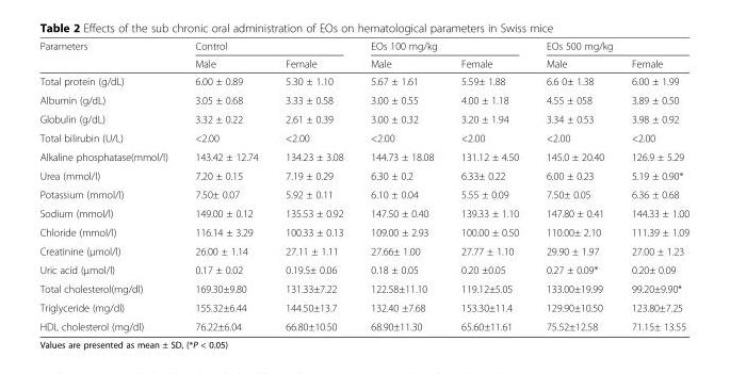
<table><thead><tr><td rowspan="2">Parameters</td><td colspan="2">Control</td><td colspan="2">EOs 100 mg/kg</td><td colspan="2">EOs 500 mg/kg</td></tr><tr><td>Male</td><td>Female</td><td>Male</td><td>Female</td><td>Male</td><td>Female</td></tr></thead><tbody><tr><td>Total protein (g/dL)</td><td>6.00 ± 0.89</td><td>5.30 ± 1.10</td><td>5.67 ± 1.61</td><td>5.59± 1.88</td><td>6.6 0± 1.38</td><td>6.00 ± 1.99</td></tr><tr><td>Albumin (g/dL)</td><td>3.05 ± 0.68</td><td>3.33 ± 0.58</td><td>3.00 ± 0.55</td><td>4.00 ± 1.18</td><td>4.55 ± 058</td><td>3.89 ± 0.50</td></tr><tr><td>Globulin (g/dL)</td><td>3.32 ± 0.22</td><td>2.61 ± 0.39</td><td>3.00 ± 0.32</td><td>3.20 ± 1.94</td><td>3.34 ± 0.53</td><td>3.98 ± 0.92</td></tr><tr><td>Total bilirubin (U/L)</td><td>&lt;2.00</td><td>&lt;2.00</td><td>&lt;2.00</td><td>&lt;2.00</td><td>&lt;2.00</td><td>&lt;2.00</td></tr><tr><td>Alkaline phosphatase(mmol/l)</td><td>143.42 ± 12.74</td><td>134.23 ± 3.08</td><td>144.73 ± 18.08</td><td>131.12 ± 4.50</td><td>145.0 ± 20.40</td><td>126.9 ± 5.29</td></tr><tr><td>Urea (mmol/l)</td><td>7.20 ± 0.15</td><td>7.19 ± 0.29</td><td>6.30 ± 0.2</td><td>6.33± 0.22</td><td>6.00 ± 0.23</td><td>5.19 ± 0.90*</td></tr><tr><td>Potassium (mmol/l)</td><td>7.50± 0.07</td><td>5.92 ± 0.11</td><td>6.10 ± 0.04</td><td>5.55 ± 0.09</td><td>7.50± 0.05</td><td>6.36 ± 0.68</td></tr><tr><td>Sodium (mmol/l)</td><td>149.00 ± 0.12</td><td>135.53 ± 0.92</td><td>147.50 ± 0.40</td><td>139.33 ± 1.10</td><td>147.80 ± 0.41</td><td>144.33 ± 1.00</td></tr><tr><td>Chloride (mmol/l)</td><td>116.14 ± 3.29</td><td>100.33 ± 0.13</td><td>109.00 ± 2.93</td><td>100.00 ± 0.50</td><td>110.00± 2.10</td><td>111.39 ± 1.09</td></tr><tr><td>Creatinine (μmol/l)</td><td>26.00 ± 1.14</td><td>27.11 ± 1.11</td><td>27.66± 1.00</td><td>27.77 ± 1.10</td><td>29.90 ± 1.97</td><td>27.00 ± 1.23</td></tr><tr><td>Uric acid (μmol/l)</td><td>0.17 ± 0.02</td><td>0.19.5± 0.06</td><td>0.18 ± 0.05</td><td>0.20 ±0.05</td><td>0.27 ± 0.09*</td><td>0.20± 0.09</td></tr><tr><td>Total cholesterol(mg/dl)</td><td>169.30±9.80</td><td>131.33±7.22</td><td>122.58±11.10</td><td>119.12±5.05</td><td>133.00±19.99</td><td>99.20±9.90*</td></tr><tr><td>Triglyceride (mg/dl)</td><td>155.32±6.44</td><td>144.50±13.7</td><td>132.40 ±7.68</td><td>153.30±11.4</td><td>129.90±10.50</td><td>123.80±7.25</td></tr><tr><td>HDL cholesterol (mg/dl)</td><td>76.22±6.04</td><td>66.80±10.50</td><td>68.90±11.30</td><td>65.60±11.61</td><td>75.52±12.58</td><td>71.15± 13.55</td></tr></tbody></table>